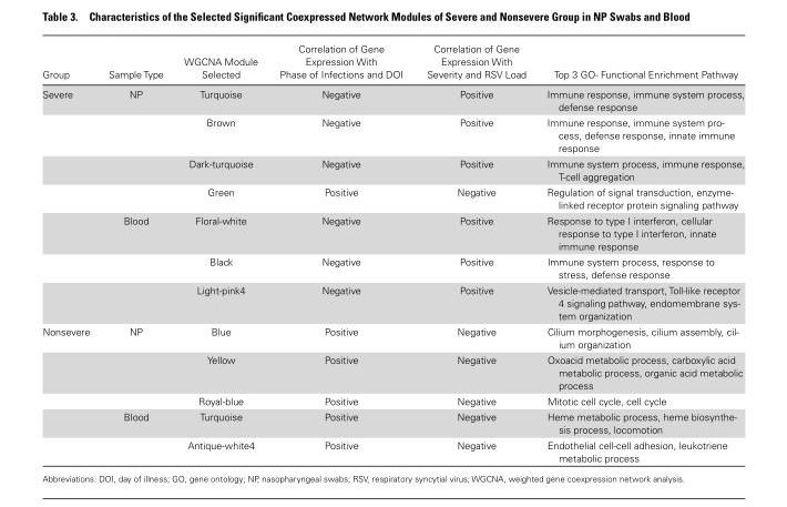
<table><thead><tr><td>Group</td><td>Sample Type</td><td>WGCNA Module Selected</td><td>Correlation of Gene Expression With Phase of Infections and DOI</td><td>Correlation of Gene Expression With Severity and RSV Load</td><td>Top 3 GO- Functional Enrichment Pathway</td></tr></thead><tbody><tr><td rowspan="7">Severe</td><td>NP</td><td>Turquoise</td><td>Negative</td><td>Positive</td><td>Immune response, immune system process, defense response</td></tr><tr><td></td><td>Brown</td><td>Negative</td><td>Positive</td><td>Immune response, immune system pro- cess, defense response, innate immune response</td></tr><tr><td></td><td>Dark-turquoise</td><td>Negative</td><td>Positive</td><td>Immune system process, immune response, T-cell aggregation</td></tr><tr><td></td><td>Green</td><td>Positive</td><td>Negative</td><td>Regulation of signal transduction, enzyme- linked receptor protein signaling pathway</td></tr><tr><td>Blood</td><td>Floral-white</td><td>Negative</td><td>Positive</td><td>Response to type I interferon, cellular response to type I interferon, innate immune response</td></tr><tr><td></td><td>Black</td><td>Negative</td><td>Positive</td><td>Immune system process, response to stress, defense response</td></tr><tr><td></td><td>Light-pink4</td><td>Negative</td><td>Positive</td><td>Vesicle-mediated transport, Toll-like receptor 4 signaling pathway, endomembrane sys- tem organization</td></tr><tr><td rowspan="5">Nonsevere</td><td>NP</td><td>Blue</td><td>Positive</td><td>Negative</td><td>Cilium morphogenesis, cilium assembly, cil- ium organization</td></tr><tr><td></td><td>Yellow</td><td>Positive</td><td>Negative</td><td>Oxoacid metabolic process, carboxylic acid metabolic process, organic acid metabolic process</td></tr><tr><td></td><td>Royal-blue</td><td>Positive</td><td>Negative</td><td>Mitotic cell cycle, cell cycle</td></tr><tr><td>Blood</td><td>Turquoise</td><td>Positive</td><td>Negative</td><td>Heme metabolic process, heme biosynthe- sis process, locomotion</td></tr><tr><td></td><td>Antique-white4</td><td>Positive</td><td>Negative</td><td>Endothelial cell-cell adhesion, leukotriene metabolic process</td></tr></tbody></table>